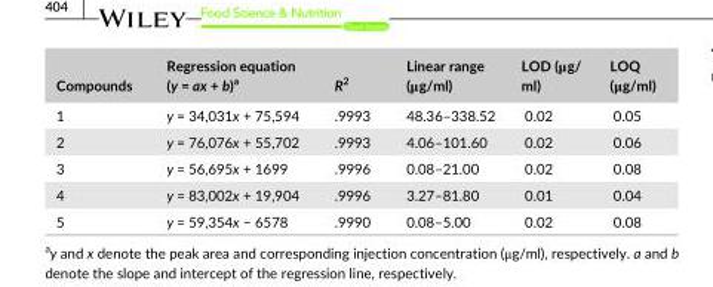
<table><thead><tr><td>Compounds</td><td>Regression equation (y = ax + b)<sup>a</sup></td><td>R<sup>2</sup></td><td>Linear range (μg/ml)</td><td>LOD (μg/ ml)</td><td>LOQ (μg/ml)</td></tr></thead><tbody><tr><td>1</td><td>y = 34,031x + 75,594</td><td>.9993</td><td>48.36–338.52</td><td>0.02</td><td>0.05</td></tr><tr><td>2</td><td>y = 76,076x + 55,702</td><td>.9993</td><td>4.06–101.60</td><td>0.02</td><td>0.06</td></tr><tr><td>3</td><td>y = 56,695x + 1699</td><td>.9996</td><td>0.08–21.00</td><td>0.02</td><td>0.08</td></tr><tr><td>4</td><td>y = 83,002x + 19,904</td><td>.9996</td><td>3.27–81.80</td><td>0.01</td><td>0.04</td></tr><tr><td>5</td><td>y = 59,354x − 6578</td><td>.9990</td><td>0.08–5.00</td><td>0.02</td><td>0.08</td></tr></tbody></table>